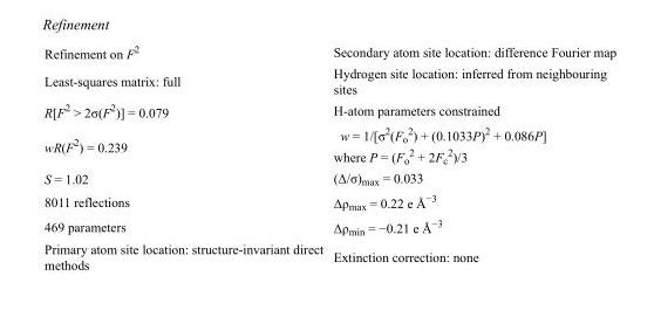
<table><tbody><tr><td>Refinement on F<sup>2</sup></td><td>Secondary atom site location: difference Fourier map</td></tr><tr><td>Least-squares matrix: full</td><td>Hydrogen site location: inferred from neighbouring sites</td></tr><tr><td>R[F<sup>2</sup> &gt; 2σ(F<sup>2</sup>)] = 0.079</td><td>H-atom parameters constrained</td></tr><tr><td>wR(F<sup>2</sup>) = 0.239</td><td>w = 1/[σ<sup>2</sup>(F<sub>o</sub> <sup>2</sup>) + (0.1033P)<sup>2</sup> + 0.086P] where P = (F<sub>o</sub> <sup>2</sup> + 2F<sub>c</sub> <sup>2</sup>)/3</td></tr><tr><td>S = 1.02</td><td>(Δ/σ)<sub>max</sub> = 0.033</td></tr><tr><td>8011 reflections</td><td>Δρ<sub>max</sub> = 0.22 e Å<sup>−3</sup></td></tr><tr><td>469 parameters</td><td>Δρ<sub>min</sub> = −0.21 e Å<sup>−3</sup></td></tr><tr><td>Primary atom site location: structure-invariant direct methods</td><td>Extinction correction: none</td></tr></tbody></table>